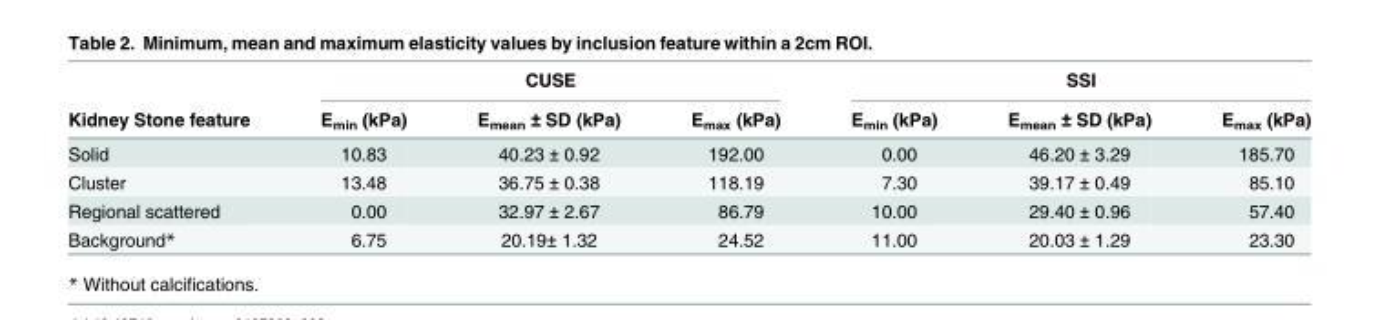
<table><thead><tr><td rowspan="2">Kidney Stone feature</td><td colspan="3">CUSE</td><td colspan="3">SSI</td></tr><tr><td>E<sub>min</sub> (kPa)</td><td>E<sub>mean</sub> ± SD (kPa)</td><td>E<sub>max</sub> (kPa)</td><td>E<sub>min</sub> (kPa)</td><td>E<sub>mean</sub> ± SD (kPa)</td><td>E<sub>max</sub> (kPa)</td></tr></thead><tbody><tr><td>Solid</td><td>10.83</td><td>40.23 ± 0.92</td><td>192.00</td><td>0.00</td><td>46.20 ± 3.29</td><td>185.70</td></tr><tr><td>Cluster</td><td>13.48</td><td>36.75 ± 0.38</td><td>118.19</td><td>7.30</td><td>39.17 ± 0.49</td><td>85.10</td></tr><tr><td>Regional scattered</td><td>0.00</td><td>32.97 ± 2.67</td><td>86.79</td><td>10.00</td><td>29.40 ± 0.96</td><td>57.40</td></tr><tr><td>Background*</td><td>6.75</td><td>20.19± 1.32</td><td>24.52</td><td>11.00</td><td>20.03 ± 1.29</td><td>23.30</td></tr></tbody></table>